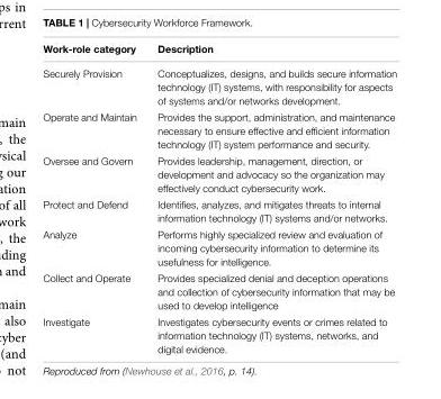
<table><thead><tr><td>Work-role category</td><td>Description</td></tr></thead><tbody><tr><td>Securely Provision</td><td>Conceptualizes, designs, and builds secure information technology (IT) systems, with responsibility for aspects of systems and/or networks development.</td></tr><tr><td>Operate and Maintain</td><td>Provides the support, administration, and maintenance necessary to ensure effective and efficient information technology (IT) system performance and security.</td></tr><tr><td>Oversee and Govern</td><td>Provides leadership, management, direction, or development and advocacy so the organization may effectively conduct cybersecurity work.</td></tr><tr><td>Protect and Defend</td><td>Identifies, analyzes, and mitigates threats to internal information technology (IT) systems and/or networks.</td></tr><tr><td>Analyze</td><td>Performs highly specialized review and evaluation of incoming cybersecurity information to determine its usefulness for intelligence.</td></tr><tr><td>Collect and Operate</td><td>Provides specialized denial and deception operations and collection of cybersecurity information that may be used to develop intelligence</td></tr><tr><td>Investigate</td><td>Investigates cybersecurity events or crimes related to information technology (IT) systems, networks, and digital evidence.</td></tr></tbody></table>